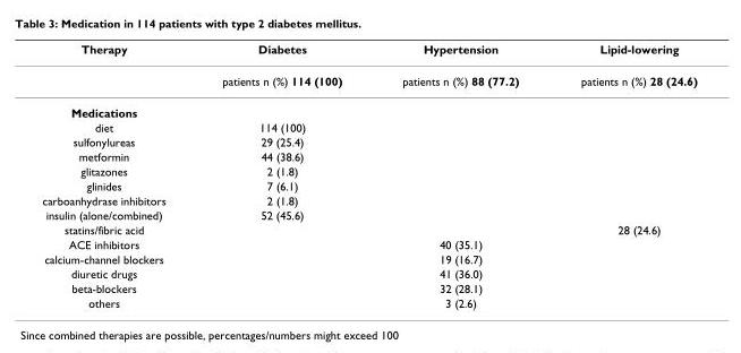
<table><thead><tr><td>Therapy</td><td>Diabetes</td><td>Hypertension</td><td>Lipid-lowering</td></tr></thead><tbody><tr><td></td><td>patients n (%) 114 (100)</td><td>patients n (%) 88 (77.2)</td><td>patients n (%) 28 (24.6)</td></tr><tr><td colspan="4">Medications</td></tr><tr><td>diet</td><td>114 (100)</td><td></td><td></td></tr><tr><td>sulfonylureas</td><td>29 (25.4)</td><td></td><td></td></tr><tr><td>metformin</td><td>44 (38.6)</td><td></td><td></td></tr><tr><td>glitazones</td><td>2 (1.8)</td><td></td><td></td></tr><tr><td>glinides</td><td>7 (6.1)</td><td></td><td></td></tr><tr><td>carboanhydrase inhibitors</td><td>2 (1.8)</td><td></td><td></td></tr><tr><td>insulin (alone/combined)</td><td>52 (45.6)</td><td></td><td></td></tr><tr><td>statins/fibric acid</td><td></td><td></td><td>28 (24.6)</td></tr><tr><td>ACE inhibitors</td><td></td><td>40 (35.1)</td><td></td></tr><tr><td>calcium-channel blockers</td><td></td><td>19 (16.7)</td><td></td></tr><tr><td>diuretic drugs</td><td></td><td>41 (36.0)</td><td></td></tr><tr><td>beta-blockers</td><td></td><td>32 (28.1)</td><td></td></tr><tr><td>others</td><td></td><td>3 (2.6)</td><td></td></tr></tbody></table>